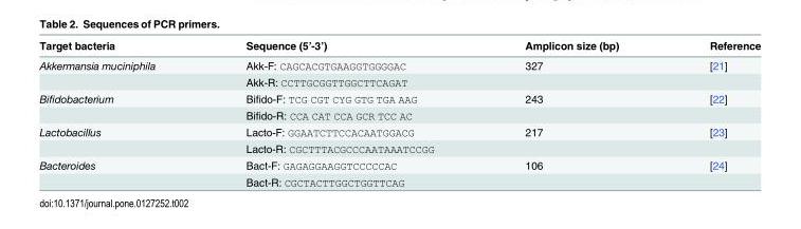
<table><thead><tr><td>Target bacteria</td><td>Sequence (5’-3’)</td><td>Amplicon size (bp)</td><td>Reference</td></tr></thead><tbody><tr><td rowspan="2">Akkermansia muciniphila</td><td>Akk-F: CAGCACGTGAAGGTGGGGAC</td><td>327</td><td>[21]</td></tr><tr><td>Akk-R: CCTTGCGGTTGGCTTCAGAT</td><td></td><td></td></tr><tr><td rowspan="2">Bifidobacterium</td><td>Bifido-F: TCG CGT CYG GTG TGA AAG</td><td>243</td><td>[22]</td></tr><tr><td>Bifido-R: CCA CAT CCA GCR TCC AC</td><td></td><td></td></tr><tr><td rowspan="2">Lactobacillus</td><td>Lacto-F: GGAATCTTCCACAATGGACG</td><td>217</td><td>[23]</td></tr><tr><td>Lacto-R: CGCTTTACGCCCAATAAATCCGG</td><td></td><td></td></tr><tr><td rowspan="2">Bacteroides</td><td>Bact-F: GAGAGGAAGGTCCCCCAC</td><td>106</td><td>[24]</td></tr><tr><td>Bact-R: CGCTACTTGGCTGGTTCAG</td><td></td><td></td></tr></tbody></table>